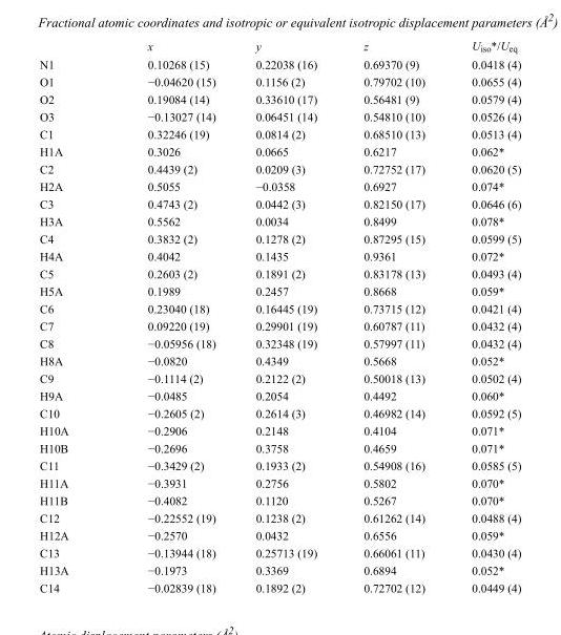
<table><thead><tr><td></td><td>x</td><td>y</td><td>z</td><td>U<sub>iso</sub>*/U<sub>eq</sub></td></tr></thead><tbody><tr><td>N1</td><td>0.10268 (15)</td><td>0.22038 (16)</td><td>0.69370 (9)</td><td>0.0418 (4)</td></tr><tr><td>O1</td><td>−0.04620 (15)</td><td>0.1156 (2)</td><td>0.79702 (10)</td><td>0.0655 (4)</td></tr><tr><td>O2</td><td>0.19084 (14)</td><td>0.33610 (17)</td><td>0.56481 (9)</td><td>0.0579 (4)</td></tr><tr><td>O3</td><td>−0.13027 (14)</td><td>0.06451 (14)</td><td>0.54810 (10)</td><td>0.0526 (4)</td></tr><tr><td>C1</td><td>0.32246 (19)</td><td>0.0814 (2)</td><td>0.68510 (13)</td><td>0.0513 (4)</td></tr><tr><td>H1A</td><td>0.3026</td><td>0.0665</td><td>0.6217</td><td>0.062*</td></tr><tr><td>C2</td><td>0.4439 (2)</td><td>0.0209 (3)</td><td>0.72752 (17)</td><td>0.0620 (5)</td></tr><tr><td>H2A</td><td>0.5055</td><td>−0.0358</td><td>0.6927</td><td>0.074*</td></tr><tr><td>C3</td><td>0.4743 (2)</td><td>0.0442 (3)</td><td>0.82150 (17)</td><td>0.0646 (6)</td></tr><tr><td>H3A</td><td>0.5562</td><td>0.0034</td><td>0.8499</td><td>0.078*</td></tr><tr><td>C4</td><td>0.3832 (2)</td><td>0.1278 (2)</td><td>0.87295 (15)</td><td>0.0599 (5)</td></tr><tr><td>H4A</td><td>0.4042</td><td>0.1435</td><td>0.9361</td><td>0.072*</td></tr><tr><td>C5</td><td>0.2603 (2)</td><td>0.1891 (2)</td><td>0.83178 (13)</td><td>0.0493 (4)</td></tr><tr><td>H5A</td><td>0.1989</td><td>0.2457</td><td>0.8668</td><td>0.059*</td></tr><tr><td>C6</td><td>0.23040 (18)</td><td>0.16445 (19)</td><td>0.73715 (12)</td><td>0.0421 (4)</td></tr><tr><td>C7</td><td>0.09220 (19)</td><td>0.29901 (19)</td><td>0.60787 (11)</td><td>0.0432 (4)</td></tr><tr><td>C8</td><td>−0.05956 (18)</td><td>0.32348 (19)</td><td>0.57997 (11)</td><td>0.0432 (4)</td></tr><tr><td>H8A</td><td>−0.0820</td><td>0.4349</td><td>0.5668</td><td>0.052*</td></tr><tr><td>C9</td><td>−0.1114 (2)</td><td>0.2122 (2)</td><td>0.50018 (13)</td><td>0.0502 (4)</td></tr><tr><td>H9A</td><td>−0.0485</td><td>0.2054</td><td>0.4492</td><td>0.060*</td></tr><tr><td>C10</td><td>−0.2605 (2)</td><td>0.2614 (3)</td><td>0.46982 (14)</td><td>0.0592 (5)</td></tr><tr><td>H10A</td><td>−0.2906</td><td>0.2148</td><td>0.4104</td><td>0.071*</td></tr><tr><td>H10B</td><td>−0.2696</td><td>0.3758</td><td>0.4659</td><td>0.071*</td></tr><tr><td>C11</td><td>−0.3429 (2)</td><td>0.1933 (2)</td><td>0.54908 (16)</td><td>0.0585 (5)</td></tr><tr><td>H11A</td><td>−0.3931</td><td>0.2756</td><td>0.5802</td><td>0.070*</td></tr><tr><td>H11B</td><td>−0.4082</td><td>0.1120</td><td>0.5267</td><td>0.070*</td></tr><tr><td>C12</td><td>−0.22552 (19)</td><td>0.1238 (2)</td><td>0.61262 (14)</td><td>0.0488 (4)</td></tr><tr><td>H12A</td><td>−0.2570</td><td>0.0432</td><td>0.6556</td><td>0.059*</td></tr><tr><td>C13</td><td>−0.13944 (18)</td><td>0.25713 (19)</td><td>0.66061 (11)</td><td>0.0430 (4)</td></tr><tr><td>H13A</td><td>−0.1973</td><td>0.3369</td><td>0.6894</td><td>0.052*</td></tr><tr><td>C14</td><td>−0.02839 (18)</td><td>0.1892 (2)</td><td>0.72702 (12)</td><td>0.0449 (4)</td></tr></tbody></table>